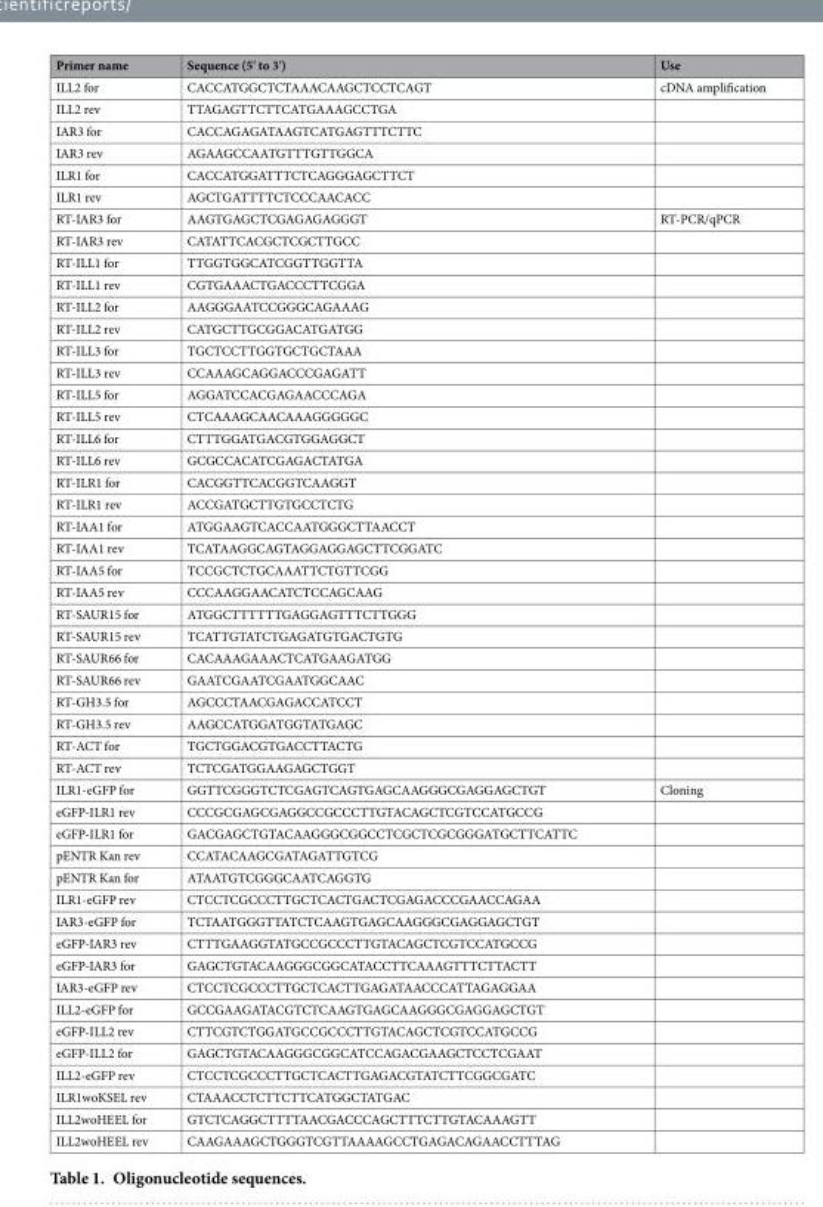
<table><thead><tr><td>Primer name</td><td>Sequence (5’ to 3’)</td><td>Use</td></tr></thead><tbody><tr><td>ILL2 for</td><td>CACCATGGCTCTAAACAAGCTCCTCAGT</td><td>cDNA amplification</td></tr><tr><td>ILL2 rev</td><td>TTAGAGTTCTTCATGAAAGCCTGA</td><td></td></tr><tr><td>IAR3 for</td><td>CACCAGAGATAAGTCATGAGTTTCTTC</td><td></td></tr><tr><td>IAR3 rev</td><td>AGAAGCCAATGTTTGTTGGCA</td><td></td></tr><tr><td>ILR1 for</td><td>CACCATGGATTTCTCAGGGAGCTTCT</td><td></td></tr><tr><td>ILR1 rev</td><td>AGCTGATTTTCTCCCAACACC</td><td></td></tr><tr><td>RT-IAR3 for</td><td>AAGTGAGCTCGAGAGAGGGT</td><td>RT-PCR/qPCR</td></tr><tr><td>RT-IAR3 rev</td><td>CATATTCACGCTCGCTTGCC</td><td></td></tr><tr><td>RT-ILL1 for</td><td>TTGGTGGCATCGGTTGGTTA</td><td></td></tr><tr><td>RT-ILL1 rev</td><td>CGTGAAACTGACCCTTCGGA</td><td></td></tr><tr><td>RT-ILL2 for</td><td>AAGGGAATCCGGGCAGAAAG</td><td></td></tr><tr><td>RT-ILL2 rev</td><td>CATGCTTGCGGACATGATGG</td><td></td></tr><tr><td>RT-ILL3 for</td><td>TGCTCCTTGGTGCTGCTAAA</td><td></td></tr><tr><td>RT-ILL3 rev</td><td>CCAAAGCAGGACCCGAGATT</td><td></td></tr><tr><td>RT-ILL5 for</td><td>AGGATCCACGAGAACCCAGA</td><td></td></tr><tr><td>RT-ILL5 rev</td><td>CTCAAAGCAACAAAGGGGGC</td><td></td></tr><tr><td>RT-ILL6 for</td><td>CTTTGGATGACGTGGAGGCT</td><td></td></tr><tr><td>RT-ILL6 rev</td><td>GCGCCACATCGAGACTATGA</td><td></td></tr><tr><td>RT-ILR1 for</td><td>CACGGTTCACGGTCAAGGT</td><td></td></tr><tr><td>RT-ILR1 rev</td><td>ACCGATGCTTGTGCCTCTG</td><td></td></tr><tr><td>RT-IAA1 for</td><td>ATGGAAGTCACCAATGGGCTTAACCT</td><td></td></tr><tr><td>RT-IAA1 rev</td><td>TCATAAGGCAGTAGGAGGAGCTTCGGATC</td><td></td></tr><tr><td>RT-IAA5 for</td><td>TCCGCTCTGCAAATTCTGTTCGG</td><td></td></tr><tr><td>RT-IAA5 rev</td><td>CCCAAGGAACATCTCCAGCAAG</td><td></td></tr><tr><td>RT-SAUR15 for</td><td>ATGGCTTTTTTGAGGAGTTTCTTGGG</td><td></td></tr><tr><td>RT-SAUR15 rev</td><td>TCATTGTATCTGAGATGTGACTGTG</td><td></td></tr><tr><td>RT-SAUR66 for</td><td>CACAAAGAAACTCATGAAGATGG</td><td></td></tr><tr><td>RT-SAUR66 rev</td><td>GAATCGAATCGAATGGCAAC</td><td></td></tr><tr><td>RT-GH3.5 for</td><td>AGCCCTAACGAGACCATCCT</td><td></td></tr><tr><td>RT-GH3.5 rev</td><td>AAGCCATGGATGGTATGAGC</td><td></td></tr><tr><td>RT-ACT for</td><td>TGCTGGACGTGACCTTACTG</td><td></td></tr><tr><td>RT-ACT rev</td><td>TCTCGATGGAAGAGCTGGT</td><td></td></tr><tr><td>ILR1-eGFP for</td><td>GGTTCGGGTCTCGAGTCAGTGAGCAAGGGCGAGGAGCTGT</td><td>Cloning</td></tr><tr><td>eGFP-ILR1 rev</td><td>CCCGCGAGCGAGGCCGCCCTTGTACAGCTCGTCCATGCCG</td><td></td></tr><tr><td>eGFP-ILR1 for</td><td>GACGAGCTGTACAAGGGCGGCCTCGCTCGCGGGATGCTTCATTC</td><td></td></tr><tr><td>pENTR Kan rev</td><td>CCATACAAGCGATAGATTGTCG</td><td></td></tr><tr><td>pENTR Kan for</td><td>ATAATGTCGGGCAATCAGGTG</td><td></td></tr><tr><td>ILR1-eGFP rev</td><td>CTCCTCGCCCTTGCTCACTGACTCGAGACCCGAACCAGAA</td><td></td></tr><tr><td>IAR3-eGFP for</td><td>TCTAATGGGTTATCTCAAGTGAGCAAGGGCGAGGAGCTGT</td><td></td></tr><tr><td>eGFP-IAR3 rev</td><td>CTTTGAAGGTATGCCGCCCTTGTACAGCTCGTCCATGCCG</td><td></td></tr><tr><td>eGFP-IAR3 for</td><td>GAGCTGTACAAGGGCGGCATACCTTCAAAGTTTCTTACTT</td><td></td></tr><tr><td>IAR3-eGFP rev</td><td>CTCCTCGCCCTTGCTCACTTGAGATAACCCATTAGAGGAA</td><td></td></tr><tr><td>ILL2-eGFP for</td><td>GCCGAAGATACGTCTCAAGTGAGCAAGGGCGAGGAGCTGT</td><td></td></tr><tr><td>eGFP-ILL2 rev</td><td>CTTCGTCTGGATGCCGCCCTTGTACAGCTCGTCCATGCCG</td><td></td></tr><tr><td>eGFP-ILL2 for</td><td>GAGCTGTACAAGGGCGGCATCCAGACGAAGCTCCTCGAAT</td><td></td></tr><tr><td>ILL2-eGFP rev</td><td>CTCCTCGCCCTTGCTCACTTGAGACGTATCTTCGGCGATC</td><td></td></tr><tr><td>ILR1woKSEL rev</td><td>CTAAACCTCTTCTTCATGGCTATGAC</td><td></td></tr><tr><td>ILL2woHEEL for</td><td>GTCTCAGGCTTTTAACGACCCAGCTTTCTTGTACAAAGTT</td><td></td></tr><tr><td>ILL2woHEEL rev</td><td>CAAGAAAGCTGGGTCGTTAAAAGCCTGAGACAGAACCTTTAG</td><td></td></tr></tbody></table>